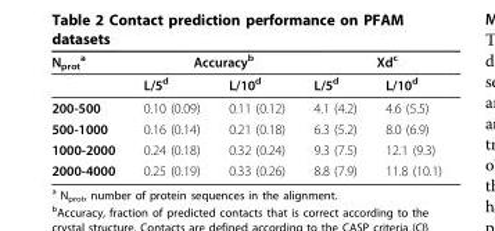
<table><thead><tr><td rowspan="2">N<sub>prot</sub> <sup>a</sup></td><td colspan="2">Accuracy<sup>b</sup></td><td colspan="2">Xd<sup>c</sup></td></tr><tr><td>L/5<sup>d</sup></td><td>L/10<sup>d</sup></td><td>L/5<sup>d</sup></td><td>L/10<sup>d</sup></td></tr></thead><tbody><tr><td>200-500</td><td>0.10 (0.09)</td><td>0.11 (0.12)</td><td>4.1 (4.2)</td><td>4.6 (5.5)</td></tr><tr><td>500-1000</td><td>0.16 (0.14)</td><td>0.21 (0.18)</td><td>6.3 (5.2)</td><td>8.0 (6.9)</td></tr><tr><td>1000-2000</td><td>0.24 (0.18)</td><td>0.32 (0.24)</td><td>9.3 (7.5)</td><td>12.1 (9.3)</td></tr><tr><td>2000-4000</td><td>0.25 (0.19)</td><td>0.33 (0.26)</td><td>8.8 (7.9)</td><td>11.8 (10.1)</td></tr></tbody></table>